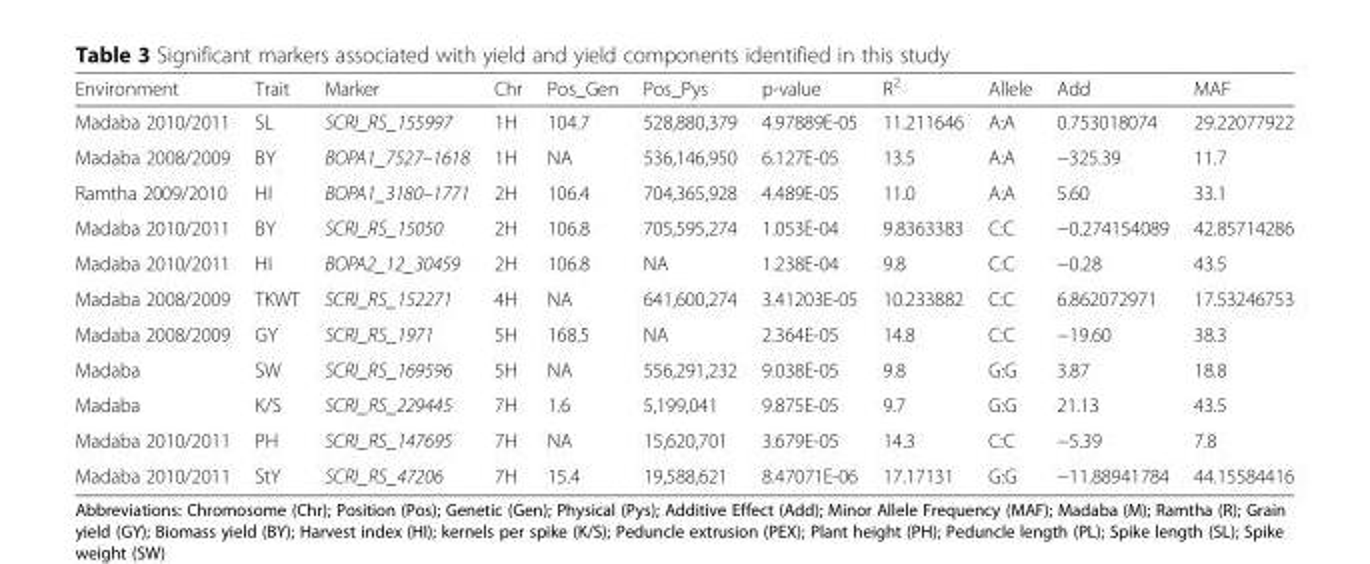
<table><thead><tr><td>Environment</td><td>Trait</td><td>Marker</td><td>Chr</td><td>Pos_Gen</td><td>Pos_Pys</td><td>p-value</td><td>R<sup>2</sup></td><td>Allele</td><td>Add</td><td>MAF</td></tr></thead><tbody><tr><td>Madaba 2010/2011</td><td>SL</td><td>SCRI_RS_155997</td><td>1H</td><td>104.7</td><td>528,880,379</td><td>4.97889E-05</td><td>11.211646</td><td>A:A</td><td>0.753018074</td><td>29.22077922</td></tr><tr><td>Madaba 2008/2009</td><td>BY</td><td>BOPA1_7527–1618</td><td>1H</td><td>NA</td><td>536,146,950</td><td>6.127E-05</td><td>13.5</td><td>A:A</td><td>−325.39</td><td>11.7</td></tr><tr><td>Ramtha 2009/2010</td><td>HI</td><td>BOPA1_3180–1771</td><td>2H</td><td>106.4</td><td>704,365,928</td><td>4.489E-05</td><td>11.0</td><td>A:A</td><td>5.60</td><td>33.1</td></tr><tr><td>Madaba 2010/2011</td><td>BY</td><td>SCRI_RS_15050</td><td>2H</td><td>106.8</td><td>705,595,274</td><td>1.053E-04</td><td>9.8363383</td><td>C:C</td><td>−0.274154089</td><td>42.85714286</td></tr><tr><td>Madaba 2010/2011</td><td>HI</td><td>BOPA2_12_30459</td><td>2H</td><td>106.8</td><td>NA</td><td>1.238E-04</td><td>9.8</td><td>C:C</td><td>−0.28</td><td>43.5</td></tr><tr><td>Madaba 2008/2009</td><td>TKWT</td><td>SCRI_RS_152271</td><td>4H</td><td>NA</td><td>641,600,274</td><td>3.41203E-05</td><td>10.233882</td><td>C:C</td><td>6.862072971</td><td>17.53246753</td></tr><tr><td>Madaba 2008/2009</td><td>GY</td><td>SCRI_RS_1971</td><td>5H</td><td>168.5</td><td>NA</td><td>2.364E-05</td><td>14.8</td><td>C:C</td><td>−19.60</td><td>38.3</td></tr><tr><td>Madaba</td><td>SW</td><td>SCRI_RS_169596</td><td>5H</td><td>NA</td><td>556,291,232</td><td>9.038E-05</td><td>9.8</td><td>G:G</td><td>3.87</td><td>18.8</td></tr><tr><td>Madaba</td><td>K/S</td><td>SCRI_RS_229445</td><td>7H</td><td>1.6</td><td>5,199,041</td><td>9.875E-05</td><td>9.7</td><td>G:G</td><td>21.13</td><td>43.5</td></tr><tr><td>Madaba 2010/2011</td><td>PH</td><td>SCRI_RS_147695</td><td>7H</td><td>NA</td><td>15,620,701</td><td>3.679E-05</td><td>14.3</td><td>C:C</td><td>−5.39</td><td>7.8</td></tr><tr><td>Madaba 2010/2011</td><td>StY</td><td>SCRI_RS_47206</td><td>7H</td><td>15.4</td><td>19,588,621</td><td>8.47071E-06</td><td>17.17131</td><td>G:G</td><td>−11.88941784</td><td>44.15584416</td></tr></tbody></table>